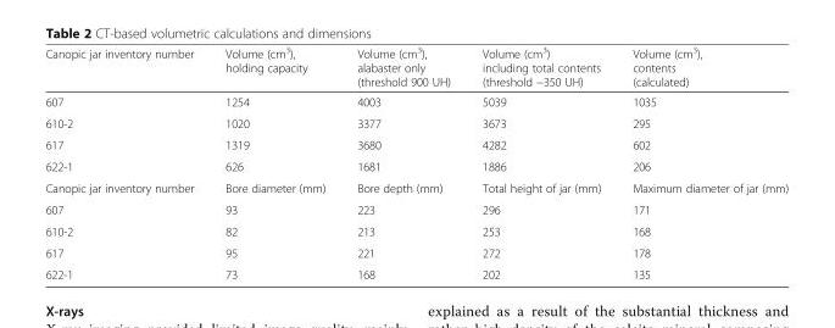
<table><thead><tr><td>Canopic jar inventory number</td><td>Volume (cm<sup>3</sup>), holding capacity</td><td>Volume (cm<sup>3</sup>), alabaster only (threshold 900 UH)</td><td>Volume (cm<sup>3</sup>) including total contents (threshold −350 UH)</td><td>Volume (cm<sup>3</sup>), contents (calculated)</td></tr></thead><tbody><tr><td>607</td><td>1254</td><td>4003</td><td>5039</td><td>1035</td></tr><tr><td>610-2</td><td>1020</td><td>3377</td><td>3673</td><td>295</td></tr><tr><td>617</td><td>1319</td><td>3680</td><td>4282</td><td>602</td></tr><tr><td>622-1</td><td>626</td><td>1681</td><td>1886</td><td>206</td></tr><tr><td>Canopic jar inventory number</td><td>Bore diameter (mm)</td><td>Bore depth (mm)</td><td>Total height of jar (mm)</td><td>Maximum diameter of jar (mm)</td></tr><tr><td>607</td><td>93</td><td>223</td><td>296</td><td>171</td></tr><tr><td>610-2</td><td>82</td><td>213</td><td>253</td><td>168</td></tr><tr><td>617</td><td>95</td><td>221</td><td>272</td><td>178</td></tr><tr><td>622-1</td><td>73</td><td>168</td><td>202</td><td>135</td></tr></tbody></table>